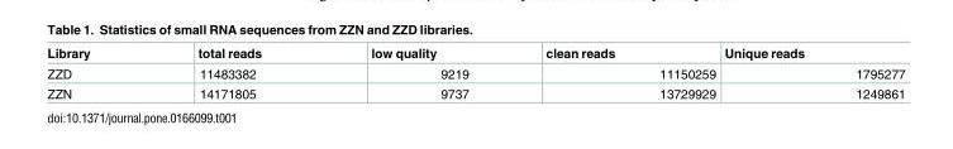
<table><thead><tr><td>Library</td><td>total reads</td><td>low quality</td><td>clean reads</td><td>Unique reads</td></tr></thead><tbody><tr><td>ZZD</td><td>11483382</td><td>9219</td><td>11150259</td><td>1795277</td></tr><tr><td>ZZN</td><td>14171805</td><td>9737</td><td>13729929</td><td>1249861</td></tr></tbody></table>